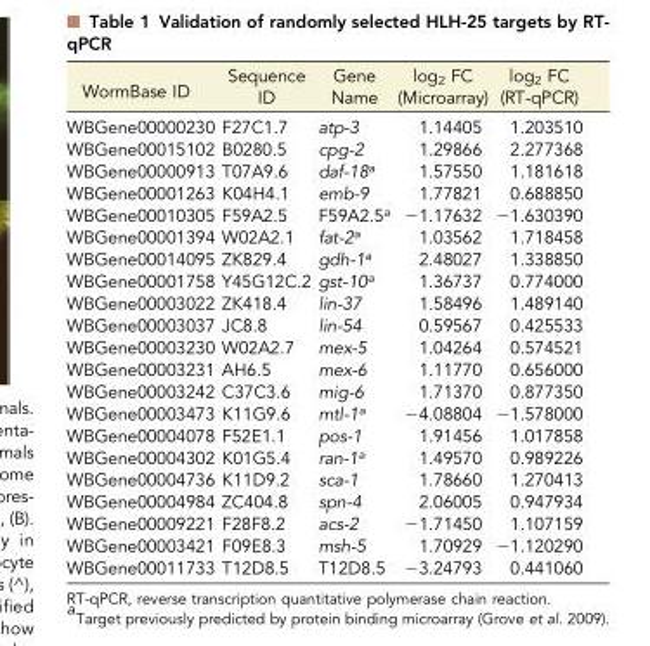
<table><thead><tr><td>WormBase ID</td><td>Sequence ID</td><td>Gene Name</td><td>log<sub>2</sub> FC (Microarray)</td><td>log<sub>2</sub> FC (RT-qPCR)</td></tr></thead><tbody><tr><td>WBGene00000230</td><td>F27C1.7</td><td>atp-3</td><td>1.14405</td><td>1.203510</td></tr><tr><td>WBGene00015102</td><td>B0280.5</td><td>cpg-2</td><td>1.29866</td><td>2.277368</td></tr><tr><td>WBGene00000913</td><td>T07A9.6</td><td>daf-18<sup>a</sup></td><td>1.57550</td><td>1.181618</td></tr><tr><td>WBGene00001263</td><td>K04H4.1</td><td>emb-9</td><td>1.77821</td><td>0.688850</td></tr><tr><td>WBGene00010305</td><td>F59A2.5</td><td>F59A2.5<sup>a</sup></td><td>−1.17632</td><td>−1.630390</td></tr><tr><td>WBGene00001394</td><td>W02A2.1</td><td>fat-2<sup>a</sup></td><td>1.03562</td><td>1.718458</td></tr><tr><td>WBGene00014095</td><td>ZK829.4</td><td>gdh-1<sup>a</sup></td><td>2.48027</td><td>1.338850</td></tr><tr><td>WBGene00001758</td><td>Y45G12C.2</td><td>gst-10<sup>a</sup></td><td>1.36737</td><td>0.774000</td></tr><tr><td>WBGene00003022</td><td>ZK418.4</td><td>lin-37</td><td>1.58496</td><td>1.489140</td></tr><tr><td>WBGene00003037</td><td>JC8.8</td><td>lin-54</td><td>0.59567</td><td>0.425533</td></tr><tr><td>WBGene00003230</td><td>W02A2.7</td><td>mex-5</td><td>1.04264</td><td>0.574521</td></tr><tr><td>WBGene00003231</td><td>AH6.5</td><td>mex-6</td><td>1.11770</td><td>0.656000</td></tr><tr><td>WBGene00003242</td><td>C37C3.6</td><td>mig-6</td><td>1.71370</td><td>0.877350</td></tr><tr><td>WBGene00003473</td><td>K11G9.6</td><td>mtl-1<sup>a</sup></td><td>−4.08804</td><td>−1.578000</td></tr><tr><td>WBGene00004078</td><td>F52E1.1</td><td>pos-1</td><td>1.91456</td><td>1.017858</td></tr><tr><td>WBGene00004302</td><td>K01G5.4</td><td>ran-1<sup>a</sup></td><td>1.49570</td><td>0.989226</td></tr><tr><td>WBGene00004736</td><td>K11D9.2</td><td>sca-1</td><td>1.78660</td><td>1.270413</td></tr><tr><td>WBGene00004984</td><td>ZC404.8</td><td>spn-4</td><td>2.06005</td><td>0.947934</td></tr><tr><td>WBGene00009221</td><td>F28F8.2</td><td>acs-2</td><td>−1.71450</td><td>1.107159</td></tr><tr><td>WBGene00003421</td><td>F09E8.3</td><td>msh-5</td><td>1.70929</td><td>−1.120290</td></tr><tr><td>WBGene00011733</td><td>T12D8.5</td><td>T12D8.5</td><td>−3.24793</td><td>0.441060</td></tr></tbody></table>